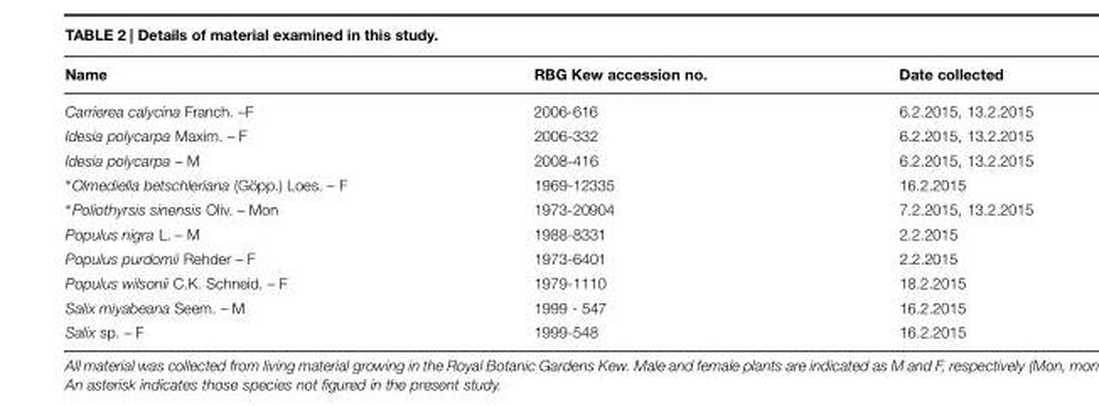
<table><thead><tr><td>Name</td><td>RBG Kew accession no.</td><td>Date collected</td></tr></thead><tbody><tr><td>Carrierea calycina Franch. –F</td><td>2006-616</td><td>6.2.2015, 13.2.2015</td></tr><tr><td>Idesia polycarpa Maxim. – F</td><td>2006-332</td><td>6.2.2015, 13.2.2015</td></tr><tr><td>Idesia polycarpa – M</td><td>2008-416</td><td>6.2.2015, 13.2.2015</td></tr><tr><td>∗Olmediella betschleriana (Göpp.) Loes. – F</td><td>1969-12335</td><td>16.2.2015</td></tr><tr><td>∗Poliothyrsis sinensis Oliv. – Mon</td><td>1973-20904</td><td>7.2.2015, 13.2.2015</td></tr><tr><td>Populus nigra L. – M</td><td>1988-8331</td><td>2.2.2015</td></tr><tr><td>Populus purdomii Rehder – F</td><td>1973-6401</td><td>2.2.2015</td></tr><tr><td>Populus wilsonii C.K. Schneid. – F</td><td>1979-1110</td><td>18.2.2015</td></tr><tr><td>Salix miyabeana Seem. – M</td><td>1999 - 547</td><td>16.2.2015</td></tr><tr><td>Salix sp. – F</td><td>1999-548</td><td>16.2.2015</td></tr></tbody></table>